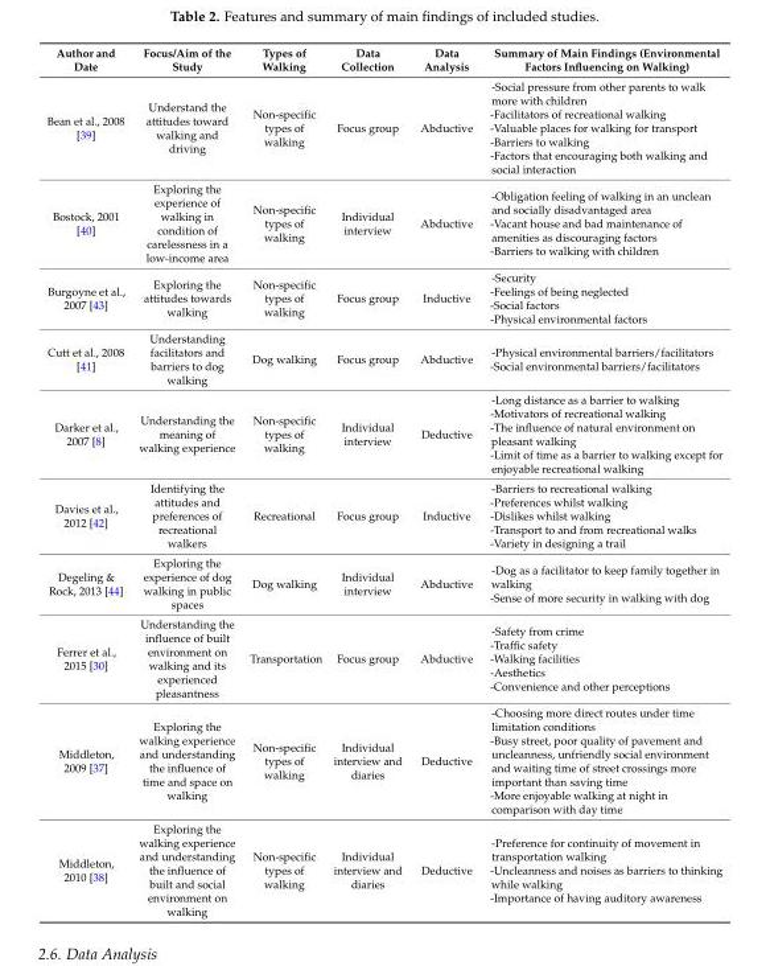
<table><thead><tr><td>Author and Date</td><td>Focus/Aim of the Study</td><td>Types of Walking</td><td>Data Collection</td><td>Data Analysis</td><td>Summary of Main Findings (Environmental Factors Influencing on Walking)</td></tr></thead><tbody><tr><td>Bean et al., 2008 [39]</td><td>Understand the attitudes toward walking and driving</td><td>Non-specific types of walking</td><td>Focus group</td><td>Abductive</td><td>-Social pressure from other parents to walk more with children -Facilitators of recreational walking -Valuable places for walking for transport -Barriers to walking -Factors that encouraging both walking and social interaction</td></tr><tr><td>Bostock, 2001 [40]</td><td>Exploring the experience of walking in condition of carelessness in a low-income area</td><td>Non-specific types of walking</td><td>Individual interview</td><td>Abductive</td><td>-Obligation feeling of walking in an unclean and socially disadvantaged area -Vacant house and bad maintenance of amenities as discouraging factors -Barriers to walking with children</td></tr><tr><td>Burgoyne et al., 2007 [43]</td><td>Exploring the attitudes towards walking</td><td>Non-specific types of walking</td><td>Focus group</td><td>Inductive</td><td>-Security -Feelings of being neglected -Social factors -Physical environmental factors</td></tr><tr><td>Cutt et al., 2008 [41]</td><td>Understanding facilitators and barriers to dog walking</td><td>Dog walking</td><td>Focus group</td><td>Abductive</td><td>-Physical environmental barriers/facilitators -Social environmental barriers/facilitators</td></tr><tr><td>Darker et al., 2007 [8]</td><td>Understanding the meaning of walking experience</td><td>Non-specific types of walking</td><td>Individual interview</td><td>Deductive</td><td>-Long distance as a barrier to walking -Motivators of recreational walking -The influence of natural environment on pleasant walking -Limit of time as a barrier to walking except for enjoyable recreational walking</td></tr><tr><td>Davies et al., 2012 [42]</td><td>Identifying the attitudes and preferences of recreational walkers</td><td>Recreational</td><td>Focus group</td><td>Inductive</td><td>-Barriers to recreational walking -Preferences whilst walking -Dislikes whilst walking -Transport to and from recreational walks -Variety in designing a trail</td></tr><tr><td>Degeling &amp; Rock, 2013 [44]</td><td>Exploring the experience of dog walking in public spaces</td><td>Dog walking</td><td>Individual interview</td><td>Abductive</td><td>-Dog as a facilitator to keep family together in walking -Sense of more security in walking with dog</td></tr><tr><td>Ferrer et al., 2015 [30]</td><td>Understanding the influence of built environment on walking and its experienced pleasantness</td><td>Transportation</td><td>Focus group</td><td>Abductive</td><td>-Safety from crime -Traffic safety -Walking facilities -Aesthetics -Convenience and other perceptions</td></tr><tr><td>Middleton, 2009 [37]</td><td>Exploring the walking experience and understanding the influence of time and space on walking</td><td>Non-specific types of walking</td><td>Individual interview and diaries</td><td>Deductive</td><td>-Choosing more direct routes under time limitation conditions -Busy street, poor quality of pavement and uncleanness, unfriendly social environment and waiting time of street crossings more important than saving time -More enjoyable walking at night in comparison with day time</td></tr><tr><td>Middleton, 2010 [38]</td><td>Exploring the walking experience and understanding the influence of built and social environment on walking</td><td>Non-specific types of walking</td><td>Individual interview and diaries</td><td>Deductive</td><td>-Preference for continuity of movement in transportation walking -Uncleanness and noises as barriers to thinking while walking -Importance of having auditory awareness</td></tr></tbody></table>